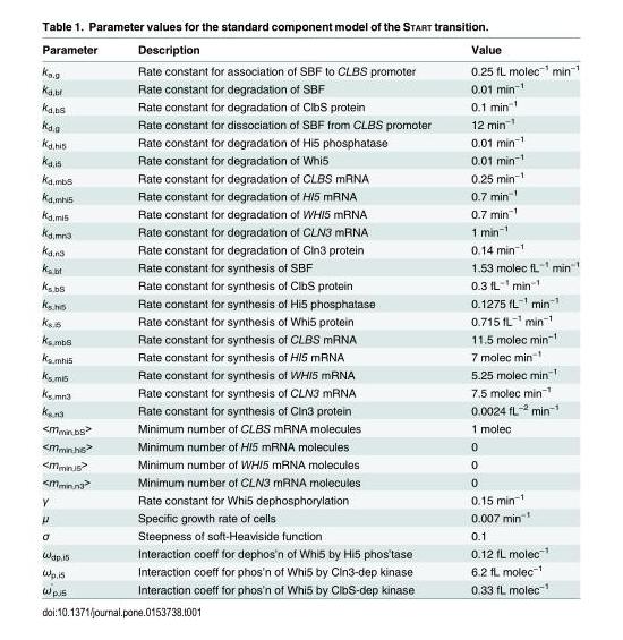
<table><thead><tr><td>Parameter</td><td>Description</td><td>Value</td></tr></thead><tbody><tr><td>k<sub>a,g</sub></td><td>Rate constant for association of SBF to CLBS promoter</td><td>0.25 fL molec<sup>−1</sup> min<sup>−1</sup></td></tr><tr><td>k<sub>d,bf</sub></td><td>Rate constant for degradation of SBF</td><td>0.01 min<sup>−1</sup></td></tr><tr><td>k<sub>d,bS</sub></td><td>Rate constant for degradation of ClbS protein</td><td>0.1 min<sup>−1</sup></td></tr><tr><td>k<sub>d,g</sub></td><td>Rate constant for dissociation of SBF from CLBS promoter</td><td>12 min<sup>−1</sup></td></tr><tr><td>k<sub>d,hi5</sub></td><td>Rate constant for degradation of Hi5 phosphatase</td><td>0.01 min<sup>−1</sup></td></tr><tr><td>k<sub>d,i5</sub></td><td>Rate constant for degradation of Whi5</td><td>0.01 min<sup>−1</sup></td></tr><tr><td>k<sub>d,mbS</sub></td><td>Rate constant for degradation of CLBS mRNA</td><td>0.25 min<sup>−1</sup></td></tr><tr><td>k<sub>d,mhi5</sub></td><td>Rate constant for degradation of HI5 mRNA</td><td>0.7 min<sup>−1</sup></td></tr><tr><td>k<sub>d,mi5</sub></td><td>Rate constant for degradation of WHI5 mRNA</td><td>0.7 min<sup>−1</sup></td></tr><tr><td>k<sub>d,mn3</sub></td><td>Rate constant for degradation of CLN3 mRNA</td><td>1 min<sup>−1</sup></td></tr><tr><td>k<sub>d,n3</sub></td><td>Rate constant for degradation of Cln3 protein</td><td>0.14 min<sup>−1</sup></td></tr><tr><td>k<sub>s,bf</sub></td><td>Rate constant for synthesis of SBF</td><td>1.53 molec fL<sup>−1</sup> min<sup>−1</sup></td></tr><tr><td>k<sub>s,bS</sub></td><td>Rate constant for synthesis of ClbS protein</td><td>0.3 fL<sup>−1</sup> min<sup>−1</sup></td></tr><tr><td>k<sub>s,hi5</sub></td><td>Rate constant for synthesis of Hi5 phosphatase</td><td>0.1275 fL<sup>−1</sup> min<sup>−1</sup></td></tr><tr><td>k<sub>s,i5</sub></td><td>Rate constant for synthesis of Whi5 protein</td><td>0.715 fL<sup>−1</sup> min<sup>−1</sup></td></tr><tr><td>k<sub>s,mbS</sub></td><td>Rate constant for synthesis of CLBS mRNA</td><td>11.5 molec min<sup>−1</sup></td></tr><tr><td>k<sub>s,mhi5</sub></td><td>Rate constant for synthesis of HI5 mRNA</td><td>7 molec min<sup>−1</sup></td></tr><tr><td>k<sub>s,mi5</sub></td><td>Rate constant for synthesis of WHI5 mRNA</td><td>5.25 molec min<sup>−1</sup></td></tr><tr><td>k<sub>s,mn3</sub></td><td>Rate constant for synthesis of CLN3 mRNA</td><td>7.5 molec min<sup>−1</sup></td></tr><tr><td>k<sub>s,n3</sub></td><td>Rate constant for synthesis of Cln3 protein</td><td>0.0024 fL<sup>−2</sup> min<sup>−1</sup></td></tr><tr><td>&lt;m<sub>min,bS</sub>&gt;</td><td>Minimum number of CLBS mRNA molecules</td><td>1 molec</td></tr><tr><td>&lt;m<sub>min,hi5</sub>&gt;</td><td>Minimum number of HI5 mRNA molecules</td><td>0</td></tr><tr><td>&lt;m<sub>min,i5</sub>&gt;</td><td>Minimum number of WHI5 mRNA molecules</td><td>0</td></tr><tr><td>&lt;m<sub>min,n3</sub>&gt;</td><td>Minimum number of CLN3 mRNA molecules</td><td>0</td></tr><tr><td>γ</td><td>Rate constant for Whi5 dephosphorylation</td><td>0.15 min<sup>−1</sup></td></tr><tr><td>μ</td><td>Specific growth rate of cells</td><td>0.007 min<sup>−1</sup></td></tr><tr><td>σ</td><td>Steepness of soft-Heaviside function</td><td>0.1</td></tr><tr><td>ω<sub>dp,i5</sub></td><td>Interaction coeff for dephos’n of Whi5 by Hi5 phos’tase</td><td>0.12 fL molec<sup>−1</sup></td></tr><tr><td>ω<sub>p,i5</sub></td><td>Interaction coeff for phos’n of Whi5 by Cln3-dep kinase</td><td>6.2 fL molec<sup>−1</sup></td></tr><tr><td>ω<sup>&#x27;</sup> <sub>p,i5</sub></td><td>Interaction coeff for phos’n of Whi5 by ClbS-dep kinase</td><td>0.33 fL molec<sup>−1</sup></td></tr></tbody></table>